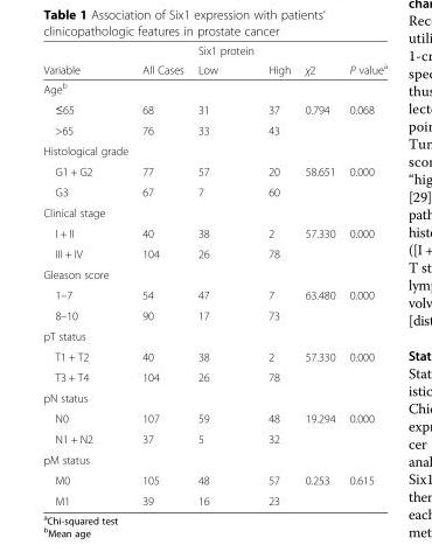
<table><thead><tr><td rowspan="2">Variable</td><td rowspan="2">All Cases</td><td rowspan="2">Six1 protein Low</td><td rowspan="2">High</td><td rowspan="2">χ2</td><td rowspan="2">P value<sup>a</sup></td></tr><tr></tr></thead><tbody><tr><td colspan="6">Age<sup>b</sup></td></tr><tr><td>≤65</td><td>68</td><td>31</td><td>37</td><td>0.794</td><td>0.068</td></tr><tr><td>&gt;65</td><td>76</td><td>33</td><td>43</td><td></td><td></td></tr><tr><td colspan="6">Histological grade</td></tr><tr><td>G1 + G2</td><td>77</td><td>57</td><td>20</td><td>58.651</td><td>0.000</td></tr><tr><td>G3</td><td>67</td><td>7</td><td>60</td><td></td><td></td></tr><tr><td colspan="6">Clinical stage</td></tr><tr><td>I + II</td><td>40</td><td>38</td><td>2</td><td>57.330</td><td>0.000</td></tr><tr><td>III + IV</td><td>104</td><td>26</td><td>78</td><td></td><td></td></tr><tr><td colspan="6">Gleason score</td></tr><tr><td>1–7</td><td>54</td><td>47</td><td>7</td><td>63.480</td><td>0.000</td></tr><tr><td>8–10</td><td>90</td><td>17</td><td>73</td><td></td><td></td></tr><tr><td colspan="6">pT status</td></tr><tr><td>T1 + T2</td><td>40</td><td>38</td><td>2</td><td>57.330</td><td>0.000</td></tr><tr><td>T3 + T4</td><td>104</td><td>26</td><td>78</td><td></td><td></td></tr><tr><td colspan="6">pN status</td></tr><tr><td>N0</td><td>107</td><td>59</td><td>48</td><td>19.294</td><td>0.000</td></tr><tr><td>N1 + N2</td><td>37</td><td>5</td><td>32</td><td></td><td></td></tr><tr><td colspan="6">pM status</td></tr><tr><td>M0</td><td>105</td><td>48</td><td>57</td><td>0.253</td><td>0.615</td></tr><tr><td>M1</td><td>39</td><td>16</td><td>23</td><td></td><td></td></tr></tbody></table>